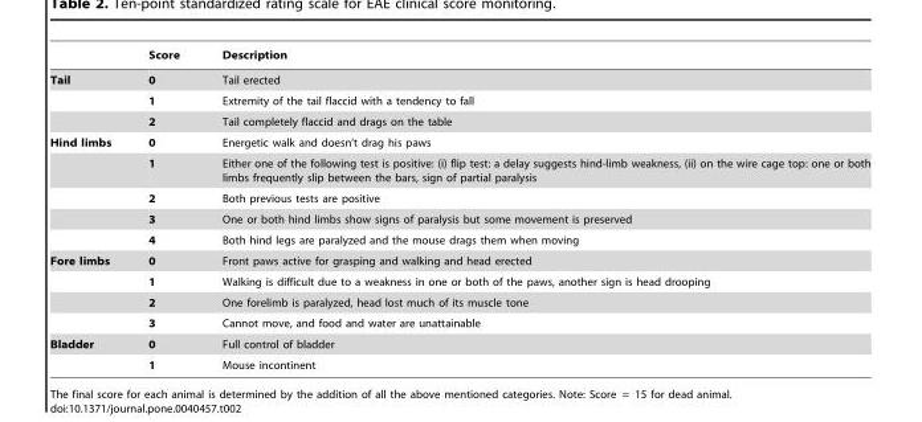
<table><thead><tr><td></td><td>Score</td><td>Description</td></tr></thead><tbody><tr><td rowspan="3">Tail</td><td>0</td><td>Tail erected</td></tr><tr><td>1</td><td>Extremity of the tail flaccid with a tendency to fall</td></tr><tr><td>2</td><td>Tail completely flaccid and drags on the table</td></tr><tr><td rowspan="5">Hind limbs</td><td>0</td><td>Energetic walk and doesn’t drag his paws</td></tr><tr><td>1</td><td>Either one of the following test is positive: (i) flip test: a delay suggests hind-limb weakness, (ii) on the wire cage top: one or both limbs frequently slip between the bars, sign of partial paralysis</td></tr><tr><td>2</td><td>Both previous tests are positive</td></tr><tr><td>3</td><td>One or both hind limbs show signs of paralysis but some movement is preserved</td></tr><tr><td>4</td><td>Both hind legs are paralyzed and the mouse drags them when moving</td></tr><tr><td rowspan="4">Fore limbs</td><td>0</td><td>Front paws active for grasping and walking and head erected</td></tr><tr><td>1</td><td>Walking is difficult due to a weakness in one or both of the paws, another sign is head drooping</td></tr><tr><td>2</td><td>One forelimb is paralyzed, head lost much of its muscle tone</td></tr><tr><td>3</td><td>Cannot move, and food and water are unattainable</td></tr><tr><td rowspan="2">Bladder</td><td>0</td><td>Full control of bladder</td></tr><tr><td>1</td><td>Mouse incontinent</td></tr></tbody></table>